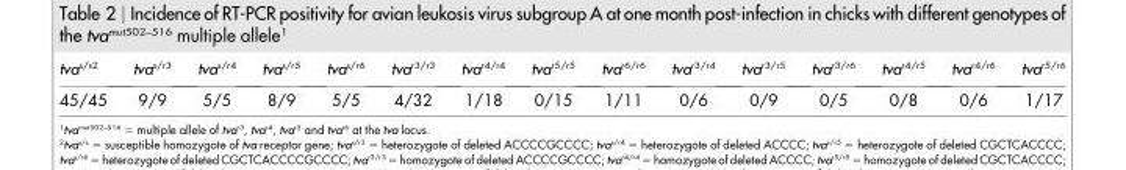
<table><thead><tr><td>tva<sup>s/s2</sup></td><td>tvas/r3</td><td>tvas/r4</td><td>tvas/r5</td><td>tvas/r6</td><td>tvar3/r3</td><td>tvar4/r4</td><td>tvar5/r5</td><td>tvar6/r6</td><td>tvar3/r4</td><td>tvar3/r5</td><td>tvar3/r6</td><td>tvar4/r5</td><td>tvar4/r6</td><td>tvar5/r6</td></tr></thead><tbody><tr><td>45/45</td><td>9/9</td><td>5/5</td><td>8/9</td><td>5/5</td><td>4/32</td><td>1/18</td><td>0/15</td><td>1/11</td><td>0/6</td><td>0/9</td><td>0/5</td><td>0/8</td><td>0/6</td><td>1/17</td></tr></tbody></table>